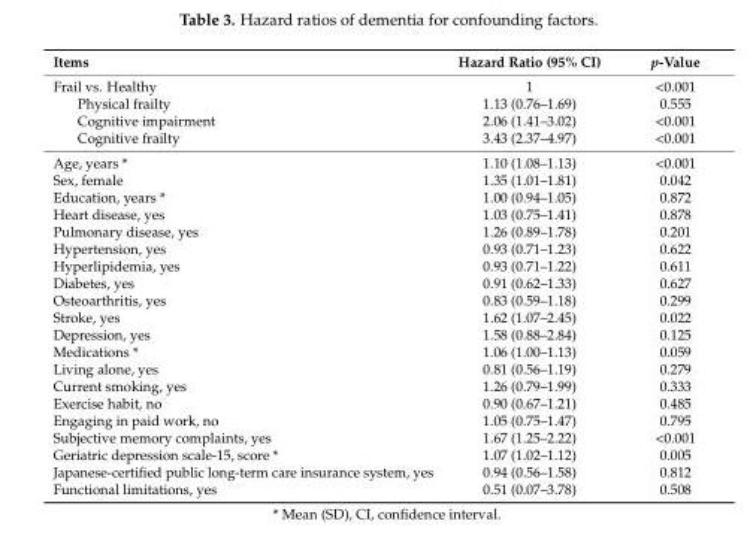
<table><thead><tr><td>Items</td><td>Hazard Ratio (95% CI)</td><td>p-Value</td></tr></thead><tbody><tr><td>Frail vs. Healthy</td><td>1</td><td>&lt;0.001</td></tr><tr><td>Physical frailty</td><td>1.13 (0.76–1.69)</td><td>0.555</td></tr><tr><td>Cognitive impairment</td><td>2.06 (1.41–3.02)</td><td>&lt;0.001</td></tr><tr><td>Cognitive frailty</td><td>3.43 (2.37–4.97)</td><td>&lt;0.001</td></tr><tr><td>Age, years *</td><td>1.10 (1.08–1.13)</td><td>&lt;0.001</td></tr><tr><td>Sex, female</td><td>1.35 (1.01–1.81)</td><td>0.042</td></tr><tr><td>Education, years *</td><td>1.00 (0.94–1.05)</td><td>0.872</td></tr><tr><td>Heart disease, yes</td><td>1.03 (0.75–1.41)</td><td>0.878</td></tr><tr><td>Pulmonary disease, yes</td><td>1.26 (0.89–1.78)</td><td>0.201</td></tr><tr><td>Hypertension, yes</td><td>0.93 (0.71–1.23)</td><td>0.622</td></tr><tr><td>Hyperlipidemia, yes</td><td>0.93 (0.71–1.22)</td><td>0.611</td></tr><tr><td>Diabetes, yes</td><td>0.91 (0.62–1.33)</td><td>0.627</td></tr><tr><td>Osteoarthritis, yes</td><td>0.83 (0.59–1.18)</td><td>0.299</td></tr><tr><td>Stroke, yes</td><td>1.62 (1.07–2.45)</td><td>0.022</td></tr><tr><td>Depression, yes</td><td>1.58 (0.88–2.84)</td><td>0.125</td></tr><tr><td>Medications *</td><td>1.06 (1.00–1.13)</td><td>0.059</td></tr><tr><td>Living alone, yes</td><td>0.81 (0.56–1.19)</td><td>0.279</td></tr><tr><td>Current smoking, yes</td><td>1.26 (0.79–1.99)</td><td>0.333</td></tr><tr><td>Exercise habit, no</td><td>0.90 (0.67–1.21)</td><td>0.485</td></tr><tr><td>Engaging in paid work, no</td><td>1.05 (0.75–1.47)</td><td>0.795</td></tr><tr><td>Subjective memory complaints, yes</td><td>1.67 (1.25–2.22)</td><td>&lt;0.001</td></tr><tr><td>Geriatric depression scale-15, score *</td><td>1.07 (1.02–1.12)</td><td>0.005</td></tr><tr><td>Japanese-certified public long-term care insurance system, yes</td><td>0.94 (0.56–1.58)</td><td>0.812</td></tr><tr><td>Functional limitations, yes</td><td>0.51 (0.07–3.78)</td><td>0.508</td></tr></tbody></table>